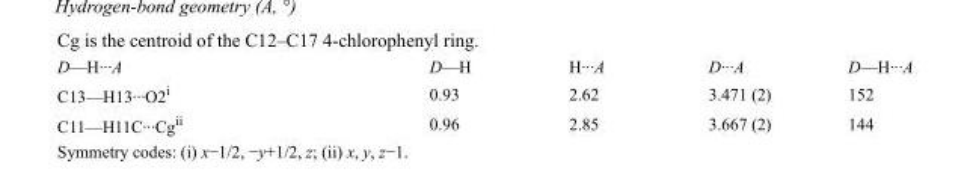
<table><tbody><tr><td>D—H···A</td><td>D—H</td><td>H···A</td><td>D···A</td><td>D—H···A</td></tr><tr><td>C13—H13···O2<sup>i</sup></td><td>0.93</td><td>2.62</td><td>3.471 (2)</td><td>152</td></tr><tr><td>C11—H11C···Cg<sup>ii</sup></td><td>0.96</td><td>2.85</td><td>3.667 (2)</td><td>144</td></tr></tbody></table>